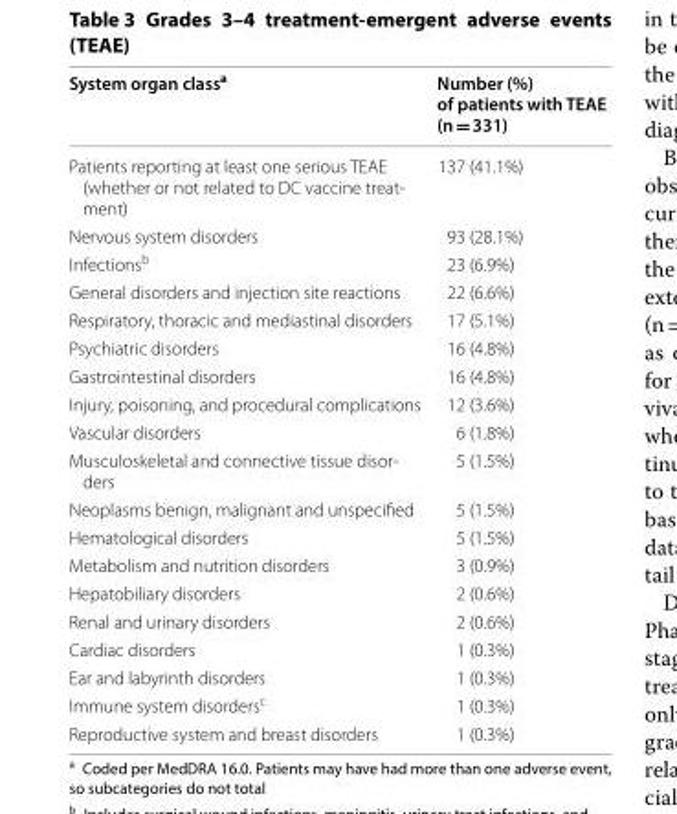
<table><thead><tr><td>System organ class<sup>a</sup></td><td>Number (%) of patients with TEAE (n = 331)</td></tr></thead><tbody><tr><td>Patients reporting at least one serious TEAE (whether or not related to DC vaccine treat‑ ment)</td><td>137 (41.1%)</td></tr><tr><td>Nervous system disorders</td><td>93 (28.1%)</td></tr><tr><td>Infections<sup>b</sup></td><td>23 (6.9%)</td></tr><tr><td>General disorders and injection site reactions</td><td>22 (6.6%)</td></tr><tr><td>Respiratory, thoracic and mediastinal disorders</td><td>17 (5.1%)</td></tr><tr><td>Psychiatric disorders</td><td>16 (4.8%)</td></tr><tr><td>Gastrointestinal disorders</td><td>16 (4.8%)</td></tr><tr><td>Injury, poisoning, and procedural complications</td><td>12 (3.6%)</td></tr><tr><td>Vascular disorders</td><td>6 (1.8%)</td></tr><tr><td>Musculoskeletal and connective tissue disor‑ ders</td><td>5 (1.5%)</td></tr><tr><td>Neoplasms benign, malignant and unspecified</td><td>5 (1.5%)</td></tr><tr><td>Hematological disorders</td><td>5 (1.5%)</td></tr><tr><td>Metabolism and nutrition disorders</td><td>3 (0.9%)</td></tr><tr><td>Hepatobiliary disorders</td><td>2 (0.6%)</td></tr><tr><td>Renal and urinary disorders</td><td>2 (0.6%)</td></tr><tr><td>Cardiac disorders</td><td>1 (0.3%)</td></tr><tr><td>Ear and labyrinth disorders</td><td>1 (0.3%)</td></tr><tr><td>Immune system disorders<sup>c</sup></td><td>1 (0.3%)</td></tr><tr><td>Reproductive system and breast disorders</td><td>1 (0.3%)</td></tr></tbody></table>